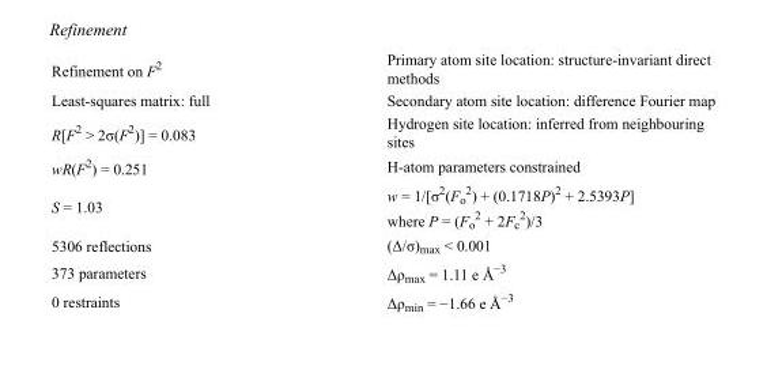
<table><tbody><tr><td>Refinement on F<sup>2</sup></td><td>Primary atom site location: structure-invariant direct methods</td></tr><tr><td>Least-squares matrix: full</td><td>Secondary atom site location: difference Fourier map</td></tr><tr><td>R[F<sup>2</sup> &gt; 2σ(F<sup>2</sup>)] = 0.083</td><td>Hydrogen site location: inferred from neighbouring sites</td></tr><tr><td>wR(F<sup>2</sup>) = 0.251</td><td>H-atom parameters constrained</td></tr><tr><td>S = 1.03</td><td>w = 1/[σ<sup>2</sup>(F<sub>o</sub> <sup>2</sup>) + (0.1718P)<sup>2</sup> + 2.5393P] where P = (F<sub>o</sub> <sup>2</sup> + 2F<sub>c</sub> <sup>2</sup>)/3</td></tr><tr><td>5306 reflections</td><td>(Δ/σ)<sub>max</sub> &lt; 0.001</td></tr><tr><td>373 parameters</td><td>Δρ<sub>max</sub> = 1.11 e Å<sup>−3</sup></td></tr><tr><td>0 restraints</td><td>Δρ<sub>min</sub> = −1.66 e Å<sup>−3</sup></td></tr></tbody></table>